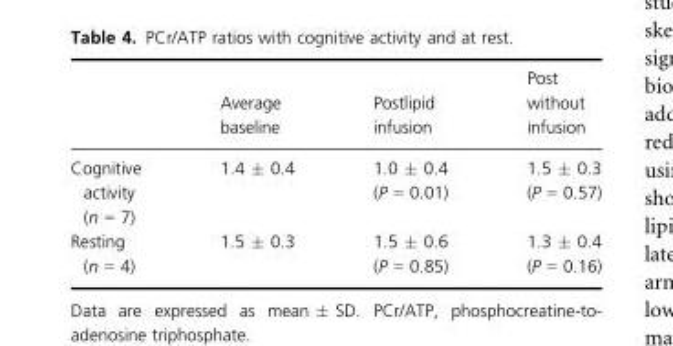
<table><thead><tr><td></td><td>Average baseline</td><td>Postlipid infusion</td><td>Post without infusion</td></tr></thead><tbody><tr><td>Cognitive activity (n = 7)</td><td>1.4 ± 0.4</td><td>1.0 ± 0.4 (P = 0.01)</td><td>1.5 ± 0.3 (P = 0.57)</td></tr><tr><td>Resting (n = 4)</td><td>1.5 ± 0.3</td><td>1.5 ± 0.6 (P = 0.85)</td><td>1.3 ± 0.4 (P = 0.16)</td></tr></tbody></table>